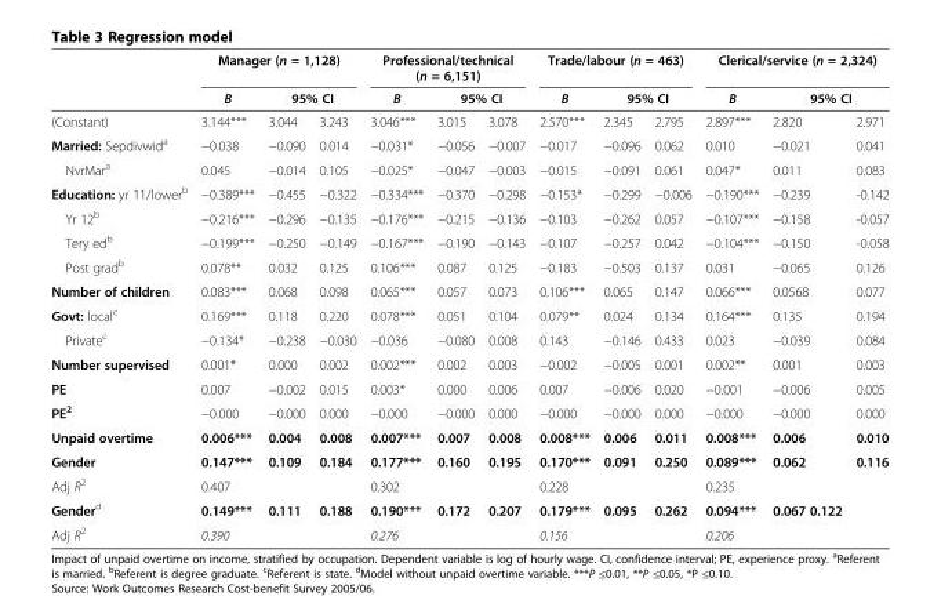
<table><thead><tr><td rowspan="3">(Constant)</td><td colspan="3">Manager (n = 1,128)</td><td colspan="3">Professional/technical (n = 6,151)</td><td colspan="3">Trade/labour (n = 463)</td><td colspan="3">Clerical/service (n = 2,324)</td></tr><tr><td rowspan="2">B 3.144***</td><td colspan="2">95% CI</td><td rowspan="2">B 3.046***</td><td colspan="2">95% CI</td><td rowspan="2">B 2.570***</td><td colspan="2">95% CI</td><td rowspan="2">B 2.897***</td><td colspan="2">95% CI</td></tr><tr><td>3.044</td><td>3.243</td><td>3.015</td><td>3.078</td><td>2.345</td><td>2.795</td><td>2.820</td><td>2.971</td></tr></thead><tbody><tr><td>Married: Sepdivwid<sup>a</sup></td><td>−0.038</td><td>−0.090</td><td>0.014</td><td>−0.031*</td><td>−0.056</td><td>−0.007</td><td>−0.017</td><td>−0.096</td><td>0.062</td><td>0.010</td><td>−0.021</td><td>0.041</td></tr><tr><td>NvrMar<sup>a</sup></td><td>0.045</td><td>−0.014</td><td>0.105</td><td>−0.025*</td><td>−0.047</td><td>−0.003</td><td>−0.015</td><td>−0.091</td><td>0.061</td><td>0.047*</td><td>0.011</td><td>0.083</td></tr><tr><td>Education: yr 11/lower<sup>b</sup></td><td>−0.389***</td><td>−0.455</td><td>−0.322</td><td>−0.334***</td><td>−0.370</td><td>−0.298</td><td>−0.153*</td><td>−0.299</td><td>−0.006</td><td>−0.190***</td><td>−0.239</td><td>-0.142</td></tr><tr><td>Yr 12<sup>b</sup></td><td>−0.216***</td><td>−0.296</td><td>−0.135</td><td>−0.176***</td><td>−0.215</td><td>−0.136</td><td>−0.103</td><td>−0.262</td><td>0.057</td><td>−0.107***</td><td>−0.158</td><td>-0.057</td></tr><tr><td>Tery ed<sup>b</sup></td><td>−0.199***</td><td>−0.250</td><td>−0.149</td><td>−0.167***</td><td>−0.190</td><td>−0.143</td><td>−0.107</td><td>−0.257</td><td>0.042</td><td>−0.104***</td><td>−0.150</td><td>-0.058</td></tr><tr><td>Post grad<sup>b</sup></td><td>0.078**</td><td>0.032</td><td>0.125</td><td>0.106***</td><td>0.087</td><td>0.125</td><td>−0.183</td><td>−0.503</td><td>0.137</td><td>0.031</td><td>−0.065</td><td>0.126</td></tr><tr><td>Number of children</td><td>0.083***</td><td>0.068</td><td>0.098</td><td>0.065***</td><td>0.057</td><td>0.073</td><td>0.106***</td><td>0.065</td><td>0.147</td><td>0.066***</td><td>0.0568</td><td>0.077</td></tr><tr><td>Govt: local<sup>c</sup></td><td>0.169***</td><td>0.118</td><td>0.220</td><td>0.078***</td><td>0.051</td><td>0.104</td><td>0.079**</td><td>0.024</td><td>0.134</td><td>0.164***</td><td>0.135</td><td>0.194</td></tr><tr><td>Private<sup>c</sup></td><td>−0.134*</td><td>−0.238</td><td>−0.030</td><td>−0.036</td><td>−0.080</td><td>0.008</td><td>0.143</td><td>−0.146</td><td>0.433</td><td>0.023</td><td>−0.039</td><td>0.084</td></tr><tr><td>Number supervised</td><td>0.001*</td><td>0.000</td><td>0.002</td><td>0.002***</td><td>0.002</td><td>0.003</td><td>−0.002</td><td>−0.005</td><td>0.001</td><td>0.002**</td><td>0.001</td><td>0.003</td></tr><tr><td>PE</td><td>0.007</td><td>−0.002</td><td>0.015</td><td>0.003*</td><td>0.000</td><td>0.006</td><td>0.007</td><td>−0.006</td><td>0.020</td><td>−0.001</td><td>−0.006</td><td>0.005</td></tr><tr><td>PE<sup>2</sup></td><td>−0.000</td><td>−0.000</td><td>0.000</td><td>−0.000</td><td>−0.000</td><td>0.000</td><td>−0.000</td><td>−0.000</td><td>0.000</td><td>−0.000</td><td>−0.000</td><td>0.000</td></tr><tr><td>Unpaid overtime</td><td>0.006***</td><td>0.004</td><td>0.008</td><td>0.007***</td><td>0.007</td><td>0.008</td><td>0.008***</td><td>0.006</td><td>0.011</td><td>0.008***</td><td>0.006</td><td>0.010</td></tr><tr><td>Gender</td><td>0.147***</td><td>0.109</td><td>0.184</td><td>0.177***</td><td>0.160</td><td>0.195</td><td>0.170***</td><td>0.091</td><td>0.250</td><td>0.089***</td><td>0.062</td><td>0.116</td></tr><tr><td>Adj R<sup>2</sup></td><td>0.407</td><td></td><td></td><td>0.302</td><td></td><td></td><td>0.228</td><td></td><td></td><td>0.235</td><td></td><td></td></tr><tr><td>Gender<sup>d</sup></td><td>0.149***</td><td>0.111</td><td>0.188</td><td>0.190***</td><td>0.172</td><td>0.207</td><td>0.179***</td><td>0.095</td><td>0.262</td><td>0.094***</td><td>0.067 0.122</td><td></td></tr><tr><td>Adj R<sup>2</sup></td><td>0.390</td><td></td><td></td><td>0.276</td><td></td><td></td><td>0.156</td><td></td><td></td><td>0.206</td><td></td><td></td></tr></tbody></table>